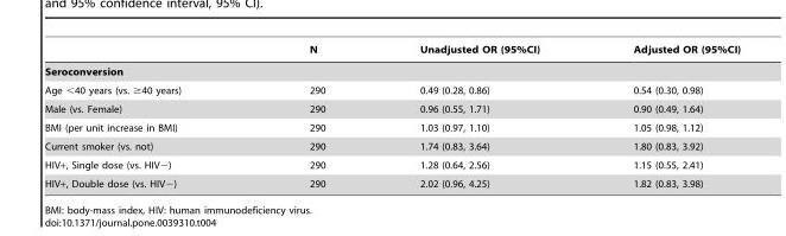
<table><thead><tr><td></td><td>N</td><td>Unadjusted OR (95%CI)</td><td>Adjusted OR (95%CI)</td></tr></thead><tbody><tr><td colspan="4">Seroconversion</td></tr><tr><td>Age &lt;40 years (vs. ≥40 years)</td><td>290</td><td>0.49 (0.28, 0.86)</td><td>0.54 (0.30, 0.98)</td></tr><tr><td>Male (vs. Female)</td><td>290</td><td>0.96 (0.55, 1.71)</td><td>0.90 (0.49, 1.64)</td></tr><tr><td>BMI (per unit increase in BMI)</td><td>290</td><td>1.03 (0.97, 1.10)</td><td>1.05 (0.98, 1.12)</td></tr><tr><td>Current smoker (vs. not)</td><td>290</td><td>1.74 (0.83, 3.64)</td><td>1.80 (0.83, 3.92)</td></tr><tr><td>HIV+, Single dose (vs. HIV−)</td><td>290</td><td>1.28 (0.64, 2.56)</td><td>1.15 (0.55, 2.41)</td></tr><tr><td>HIV+, Double dose (vs. HIV−)</td><td>290</td><td>2.02 (0.96, 4.25)</td><td>1.82 (0.83, 3.98)</td></tr></tbody></table>